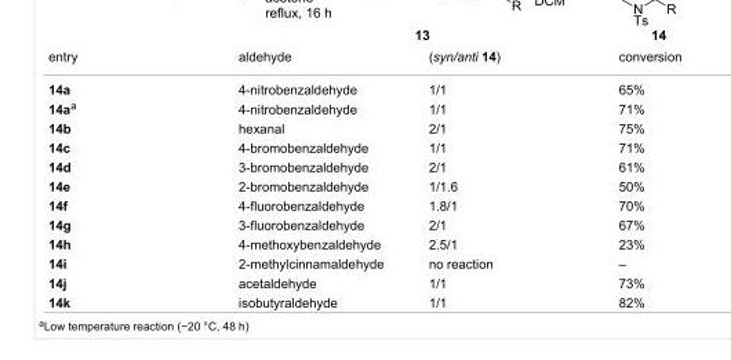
<table><tbody><tr><td>entry</td><td>aldehyde</td><td>(syn/anti 14)</td><td>conversion</td></tr><tr><td>14a</td><td>4-nitrobenzaldehyde</td><td>1/1</td><td>65%</td></tr><tr><td>14a<sup>a</sup></td><td>4-nitrobenzaldehyde</td><td>1/1</td><td>71%</td></tr><tr><td>14b</td><td>hexanal</td><td>2/1</td><td>75%</td></tr><tr><td>14c</td><td>4-bromobenzaldehyde</td><td>1/1</td><td>71%</td></tr><tr><td>14d</td><td>3-bromobenzaldehyde</td><td>2/1</td><td>61%</td></tr><tr><td>14e</td><td>2-bromobenzaldehyde</td><td>1/1.6</td><td>50%</td></tr><tr><td>14f</td><td>4-fluorobenzaldehyde</td><td>1.8/1</td><td>70%</td></tr><tr><td>14g</td><td>3-fluorobenzaldehyde</td><td>2/1</td><td>67%</td></tr><tr><td>14h</td><td>4-methoxybenzaldehyde</td><td>2.5/1</td><td>23%</td></tr><tr><td>14i</td><td>2-methylcinnamaldehyde</td><td>no reaction</td><td>–</td></tr><tr><td>14j</td><td>acetaldehyde</td><td>1/1</td><td>73%</td></tr><tr><td>14k</td><td>isobutyraldehyde</td><td>1/1</td><td>82%</td></tr></tbody></table>